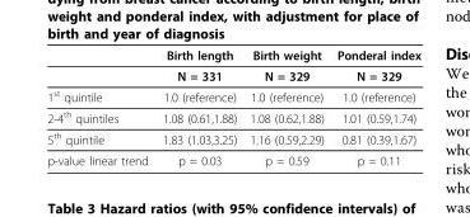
<table><thead><tr><td></td><td>Birth length</td><td>Birth weight</td><td>Ponderal index</td></tr></thead><tbody><tr><td></td><td>N = 331</td><td>N = 329</td><td>N = 329</td></tr><tr><td>1<sup>st</sup> quintile</td><td>1.0 (reference)</td><td>1.0 (reference)</td><td>1.0 (reference)</td></tr><tr><td>2-4<sup>th</sup> quintiles</td><td>1.08 (0.61,1.88)</td><td>1.08 (0.62,1.88)</td><td>1.01 (0.59,1.74)</td></tr><tr><td>5<sup>th</sup> quintile</td><td>1.83 (1.03,3.25)</td><td>1.16 (0.59,2.29)</td><td>0.81 (0.39,1.67)</td></tr><tr><td>p-value linear trend</td><td>p = 0.03</td><td>p = 0.59</td><td>p = 0.11</td></tr></tbody></table>